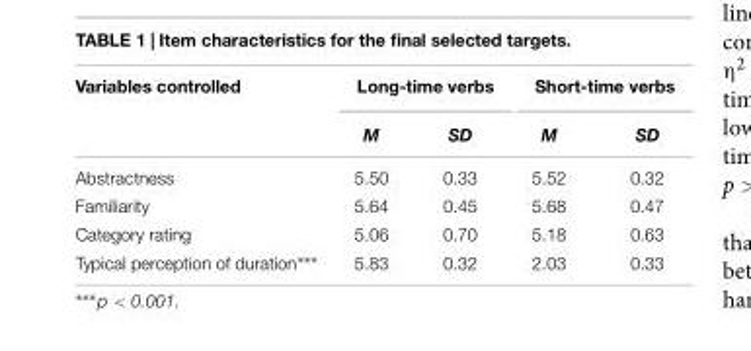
<table><thead><tr><td rowspan="2">Variables controlled</td><td colspan="2">Long-time verbs</td><td colspan="2">Short-time verbs</td></tr><tr><td>M</td><td>SD</td><td>M</td><td>SD</td></tr></thead><tbody><tr><td>Abstractness</td><td>5.50</td><td>0.33</td><td>5.52</td><td>0.32</td></tr><tr><td>Familiarity</td><td>5.64</td><td>0.45</td><td>5.68</td><td>0.47</td></tr><tr><td>Category rating</td><td>5.06</td><td>0.70</td><td>5.18</td><td>0.63</td></tr><tr><td>Typical perception of duration∗∗∗</td><td>5.83</td><td>0.32</td><td>2.03</td><td>0.33</td></tr></tbody></table>